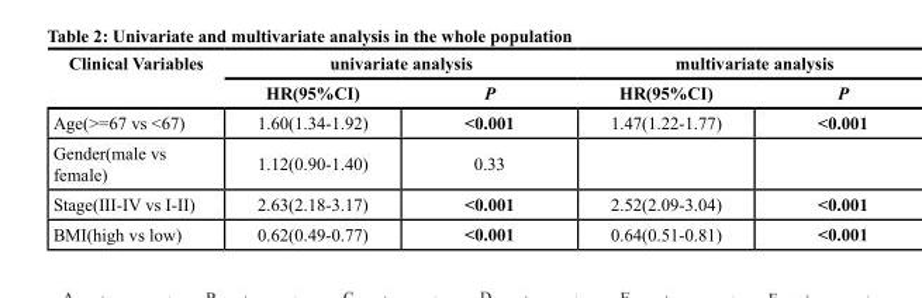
<table><thead><tr><td rowspan="2">Clinical Variables</td><td colspan="2">univariate analysis</td><td colspan="2">multivariate analysis</td></tr><tr><td>HR(95%CI)</td><td>P</td><td>HR(95%CI)</td><td>P</td></tr></thead><tbody><tr><td>Age(&gt;=67 vs &lt;67)</td><td>1.60(1.34-1.92)</td><td>&lt;0.001</td><td>1.47(1.22-1.77)</td><td>&lt;0.001</td></tr><tr><td>Gender(male vs female)</td><td>1.12(0.90-1.40)</td><td>0.33</td><td></td><td></td></tr><tr><td>Stage(III-IV vs I-II)</td><td>2.63(2.18-3.17)</td><td>&lt;0.001</td><td>2.52(2.09-3.04)</td><td>&lt;0.001</td></tr><tr><td>BMI(high vs low)</td><td>0.62(0.49-0.77)</td><td>&lt;0.001</td><td>0.64(0.51-0.81)</td><td>&lt;0.001</td></tr></tbody></table>